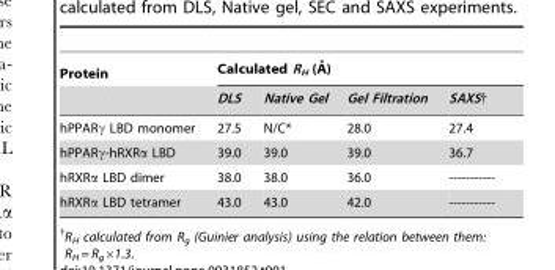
<table><thead><tr><td rowspan="2">Protein</td><td colspan="4">Calculated RH (A˚ )</td></tr><tr><td>DLS</td><td>Native Gel</td><td>Gel Filtration</td><td>SAXS†</td></tr></thead><tbody><tr><td>hPPARγ LBD monomer</td><td>27.5</td><td>N/C*</td><td>28.0</td><td>27.4</td></tr><tr><td>hPPARγ-hRXRα LBD</td><td>39.0</td><td>39.0</td><td>39.0</td><td>36.7</td></tr><tr><td>hRXRα LBD dimer</td><td>38.0</td><td>38.0</td><td>36.0</td><td>-----------</td></tr><tr><td>hRXRα LBD tetramer</td><td>43.0</td><td>43.0</td><td>42.0</td><td>-----------</td></tr></tbody></table>